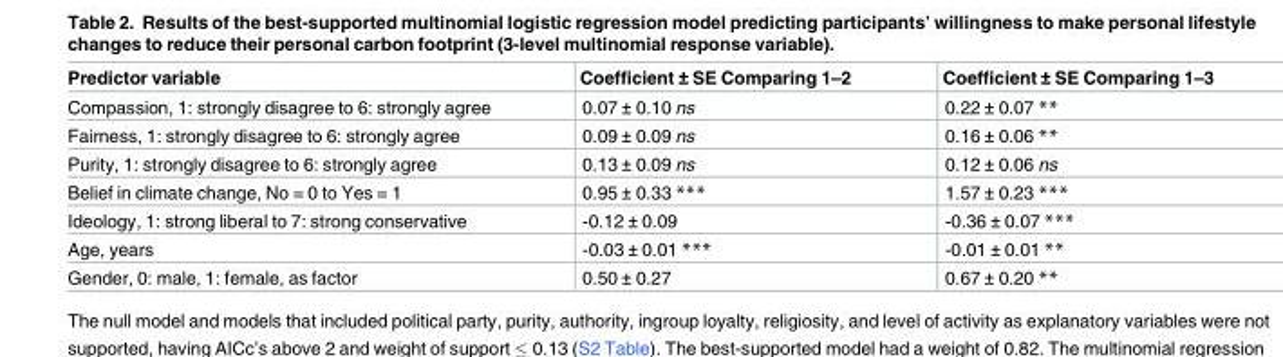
<table><thead><tr><td>Predictor variable</td><td>Coefficient ± SE Comparing 1–2</td><td>Coefficient ± SE Comparing 1–3</td></tr></thead><tbody><tr><td>Compassion, 1: strongly disagree to 6: strongly agree</td><td>0.07 ± 0.10 ns</td><td>0.22 ± 0.07 **</td></tr><tr><td>Fairness, 1: strongly disagree to 6: strongly agree</td><td>0.09 ± 0.09 ns</td><td>0.16 ± 0.06 **</td></tr><tr><td>Purity, 1: strongly disagree to 6: strongly agree</td><td>0.13 ± 0.09 ns</td><td>0.12 ± 0.06 ns</td></tr><tr><td>Belief in climate change, No = 0 to Yes = 1</td><td>0.95 ± 0.33 ***</td><td>1.57 ± 0.23 ***</td></tr><tr><td>Ideology, 1: strong liberal to 7: strong conservative</td><td>-0.12 ± 0.09</td><td>-0.36 ± 0.07 ***</td></tr><tr><td>Age, years</td><td>-0.03 ± 0.01 ***</td><td>-0.01 ± 0.01 **</td></tr><tr><td>Gender, 0: male, 1: female, as factor</td><td>0.50 ± 0.27</td><td>0.67 ± 0.20 **</td></tr></tbody></table>